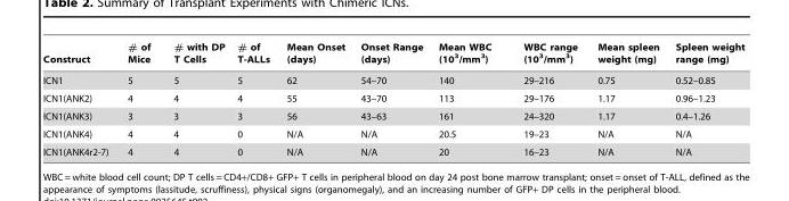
<table><thead><tr><td>Construct</td><td># of Mice</td><td># with DP T Cells</td><td># of T-ALLs</td><td>Mean Onset (days)</td><td>Onset Range (days)</td><td>Mean WBC (10<sup>3</sup>/mm<sup>3</sup>)</td><td>WBC range (10<sup>3</sup>/mm<sup>3</sup>)</td><td>Mean spleen weight (mg)</td><td>Spleen weight range (mg)</td></tr></thead><tbody><tr><td>ICN1</td><td>5</td><td>5</td><td>5</td><td>62</td><td>54–70</td><td>140</td><td>29–216</td><td>0.75</td><td>0.52–0.85</td></tr><tr><td>ICN1(ANK2)</td><td>4</td><td>4</td><td>4</td><td>55</td><td>43–70</td><td>113</td><td>29–176</td><td>1.17</td><td>0.96–1.23</td></tr><tr><td>ICN1(ANK3)</td><td>3</td><td>3</td><td>3</td><td>56</td><td>43–63</td><td>161</td><td>24–320</td><td>1.17</td><td>0.4–1.26</td></tr><tr><td>ICN1(ANK4)</td><td>4</td><td>4</td><td>0</td><td>N/A</td><td>N/A</td><td>20.5</td><td>19–23</td><td>N/A</td><td>N/A</td></tr><tr><td>ICN1(ANK4r2-7)</td><td>4</td><td>4</td><td>0</td><td>N/A</td><td>N/A</td><td>20</td><td>16–23</td><td>N/A</td><td>N/A</td></tr></tbody></table>